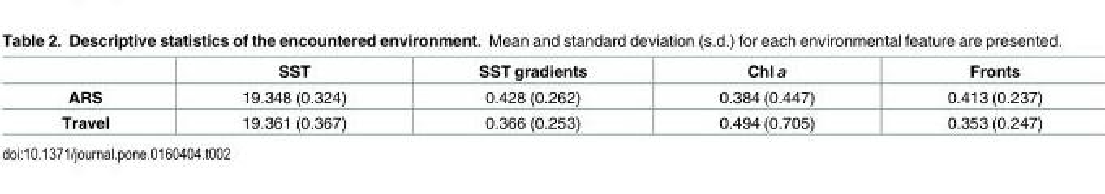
<table><thead><tr><td></td><td>SST</td><td>SST gradients</td><td>Chl a</td><td>Fronts</td></tr></thead><tbody><tr><td>ARS</td><td>19.348 (0.324)</td><td>0.428 (0.262)</td><td>0.384 (0.447)</td><td>0.413 (0.237)</td></tr><tr><td>Travel</td><td>19.361 (0.367)</td><td>0.366 (0.253)</td><td>0.494 (0.705)</td><td>0.353 (0.247)</td></tr></tbody></table>